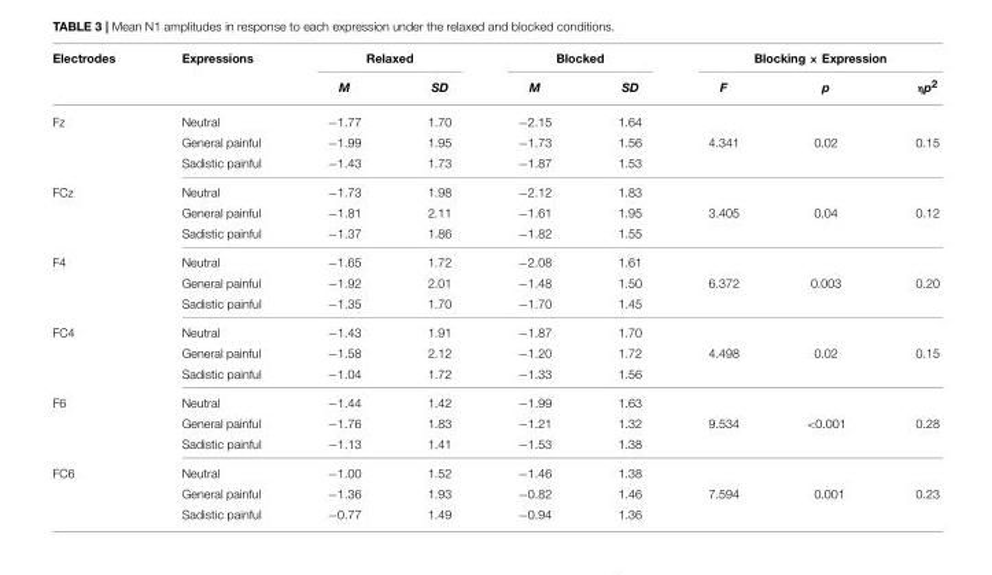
<table><thead><tr><td rowspan="2">Electrodes</td><td rowspan="2">Expressions</td><td colspan="2">Relaxed</td><td colspan="2">Blocked</td><td colspan="3">Blocking × Expression</td></tr><tr><td>M</td><td>SD</td><td>M</td><td>SD</td><td>F</td><td>p</td><td>ηp<sup>2</sup></td></tr></thead><tbody><tr><td rowspan="3">Fz</td><td>Neutral</td><td>−1.77</td><td>1.70</td><td>−2.15</td><td>1.64</td><td></td><td></td><td></td></tr><tr><td>General painful</td><td>−1.99</td><td>1.95</td><td>−1.73</td><td>1.56</td><td>4.341</td><td>0.02</td><td>0.15</td></tr><tr><td>Sadistic painful</td><td>−1.43</td><td>1.73</td><td>−1.87</td><td>1.53</td><td></td><td></td><td></td></tr><tr><td rowspan="3">FCz</td><td>Neutral</td><td>−1.73</td><td>1.98</td><td>−2.12</td><td>1.83</td><td></td><td></td><td></td></tr><tr><td>General painful</td><td>−1.81</td><td>2.11</td><td>−1.61</td><td>1.95</td><td>3.405</td><td>0.04</td><td>0.12</td></tr><tr><td>Sadistic painful</td><td>−1.37</td><td>1.86</td><td>−1.82</td><td>1.55</td><td></td><td></td><td></td></tr><tr><td rowspan="3">F4</td><td>Neutral</td><td>−1.65</td><td>1.72</td><td>−2.08</td><td>1.61</td><td></td><td></td><td></td></tr><tr><td>General painful</td><td>−1.92</td><td>2.01</td><td>−1.48</td><td>1.50</td><td>6.372</td><td>0.003</td><td>0.20</td></tr><tr><td>Sadistic painful</td><td>−1.35</td><td>1.70</td><td>−1.70</td><td>1.45</td><td></td><td></td><td></td></tr><tr><td rowspan="3">FC4</td><td>Neutral</td><td>−1.43</td><td>1.91</td><td>−1.87</td><td>1.70</td><td></td><td></td><td></td></tr><tr><td>General painful</td><td>−1.58</td><td>2.12</td><td>−1.20</td><td>1.72</td><td>4.498</td><td>0.02</td><td>0.15</td></tr><tr><td>Sadistic painful</td><td>−1.04</td><td>1.72</td><td>−1.33</td><td>1.56</td><td></td><td></td><td></td></tr><tr><td rowspan="3">F6</td><td>Neutral</td><td>−1.44</td><td>1.42</td><td>−1.99</td><td>1.63</td><td></td><td></td><td></td></tr><tr><td>General painful</td><td>−1.76</td><td>1.83</td><td>−1.21</td><td>1.32</td><td>9.534</td><td>&lt;0.001</td><td>0.28</td></tr><tr><td>Sadistic painful</td><td>−1.13</td><td>1.41</td><td>−1.53</td><td>1.38</td><td></td><td></td><td></td></tr><tr><td rowspan="3">FC6</td><td>Neutral</td><td>−1.00</td><td>1.52</td><td>−1.46</td><td>1.38</td><td></td><td></td><td></td></tr><tr><td>General painful</td><td>−1.36</td><td>1.93</td><td>−0.82</td><td>1.46</td><td>7.594</td><td>0.001</td><td>0.23</td></tr><tr><td>Sadistic painful</td><td>−0.77</td><td>1.49</td><td>−0.94</td><td>1.36</td><td></td><td></td><td></td></tr></tbody></table>